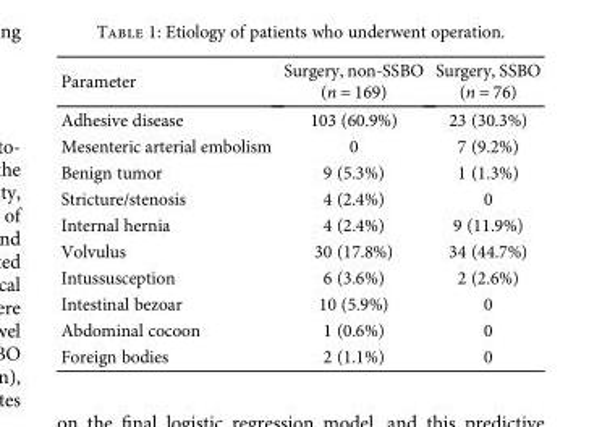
<table><thead><tr><td>Parameter</td><td>Surgery, non-SSBO (n = 169)</td><td>Surgery, SSBO (n = 76)</td></tr></thead><tbody><tr><td>Adhesive disease</td><td>103 (60.9%)</td><td>23 (30.3%)</td></tr><tr><td>Mesenteric arterial embolism</td><td>0</td><td>7 (9.2%)</td></tr><tr><td>Benign tumor</td><td>9 (5.3%)</td><td>1 (1.3%)</td></tr><tr><td>Stricture/stenosis</td><td>4 (2.4%)</td><td>0</td></tr><tr><td>Internal hernia</td><td>4 (2.4%)</td><td>9 (11.9%)</td></tr><tr><td>Volvulus</td><td>30 (17.8%)</td><td>34 (44.7%)</td></tr><tr><td>Intussusception</td><td>6 (3.6%)</td><td>2 (2.6%)</td></tr><tr><td>Intestinal bezoar</td><td>10 (5.9%)</td><td>0</td></tr><tr><td>Abdominal cocoon</td><td>1 (0.6%)</td><td>0</td></tr><tr><td>Foreign bodies</td><td>2 (1.1%)</td><td>0</td></tr></tbody></table>